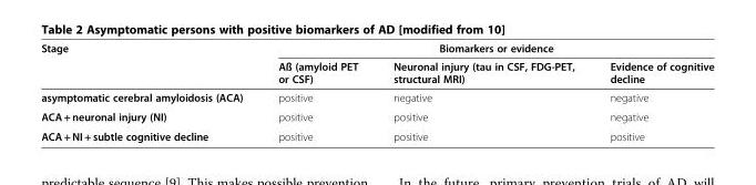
<table><thead><tr><td rowspan="2">Stage</td><td colspan="3">Biomarkers or evidence</td></tr><tr><td>Aß (amyloid PET or CSF)</td><td>Neuronal injury (tau in CSF, FDG-PET, structural MRI)</td><td>Evidence of cognitive decline</td></tr></thead><tbody><tr><td>asymptomatic cerebral amyloidosis (ACA)</td><td>positive</td><td>negative</td><td>negative</td></tr><tr><td>ACA + neuronal injury (NI)</td><td>positive</td><td>positive</td><td>negative</td></tr><tr><td>ACA + NI + subtle cognitive decline</td><td>positive</td><td>positive</td><td>positive</td></tr></tbody></table>